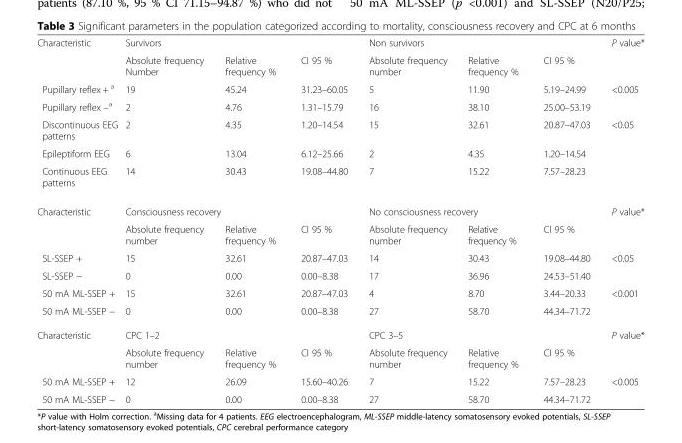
<table><tbody><tr><td rowspan="2">Characteristic</td><td colspan="3">Survivors</td><td colspan="3">Non survivors</td><td rowspan="2">P value*</td></tr><tr><td>Absolute frequency Number</td><td>Relative frequency %</td><td>CI 95 %</td><td>Absolute frequency number</td><td>Relative frequency %</td><td>CI 95 %</td></tr><tr><td>Pupillary reflex + <sup>a</sup></td><td>19</td><td>45.24</td><td>31.23–60.05</td><td>5</td><td>11.90</td><td>5.19–24.99</td><td rowspan="2">&lt;0.005</td></tr><tr><td>Pupillary reflex –<sup>a</sup></td><td>2</td><td>4.76</td><td>1.31–15.79</td><td>16</td><td>38.10</td><td>25.00–53.19</td></tr><tr><td>Discontinuous EEG patterns</td><td>2</td><td>4.35</td><td>1.20–14.54</td><td>15</td><td>32.61</td><td>20.87–47.03</td><td rowspan="3">&lt;0.05</td></tr><tr><td>Epileptiform EEG</td><td>6</td><td>13.04</td><td>6.12–25.66</td><td>2</td><td>4.35</td><td>1.20–14.54</td></tr><tr><td>Continuous EEG patterns</td><td>14</td><td>30.43</td><td>19.08–44.80</td><td>7</td><td>15.22</td><td>7.57–28.23</td></tr><tr><td rowspan="2">Characteristic</td><td colspan="3">Consciousness recovery</td><td colspan="3">No consciousness recovery</td><td rowspan="2">P value*</td></tr><tr><td>Absolute frequency number</td><td>Relative frequency %</td><td>CI 95 %</td><td>Absolute frequency number</td><td>Relative frequency %</td><td>CI 95 %</td></tr><tr><td>SL-SSEP +</td><td>15</td><td>32.61</td><td>20.87–47.03</td><td>14</td><td>30.43</td><td>19.08–44.80</td><td rowspan="2">&lt;0.05</td></tr><tr><td>SL-SSEP −</td><td>0</td><td>0.00</td><td>0.00–8.38</td><td>17</td><td>36.96</td><td>24.53–51.40</td></tr><tr><td>50 mA ML-SSEP +</td><td>15</td><td>32.61</td><td>20.87–47.03</td><td>4</td><td>8.70</td><td>3.44–20.33</td><td rowspan="2">&lt;0.001</td></tr><tr><td>50 mA ML-SSEP −</td><td>0</td><td>0.00</td><td>0.00–8.38</td><td>27</td><td>58.70</td><td>44.34–71.72</td></tr><tr><td rowspan="2">Characteristic</td><td colspan="3">CPC 1–2</td><td colspan="3">CPC 3–5</td><td rowspan="2">P value*</td></tr><tr><td>Absolute frequency number</td><td>Relative frequency %</td><td>CI 95 %</td><td>Absolute frequency number</td><td>Relative frequency %</td><td>CI 95 %</td></tr><tr><td>50 mA ML-SSEP +</td><td>12</td><td>26.09</td><td>15.60–40.26</td><td>7</td><td>15.22</td><td>7.57–28.23</td><td rowspan="2">&lt;0.005</td></tr><tr><td>50 mA ML-SSEP −</td><td>0</td><td>0.00</td><td>0.00–8.38</td><td>27</td><td>58.70</td><td>44.34–71.72</td></tr></tbody></table>